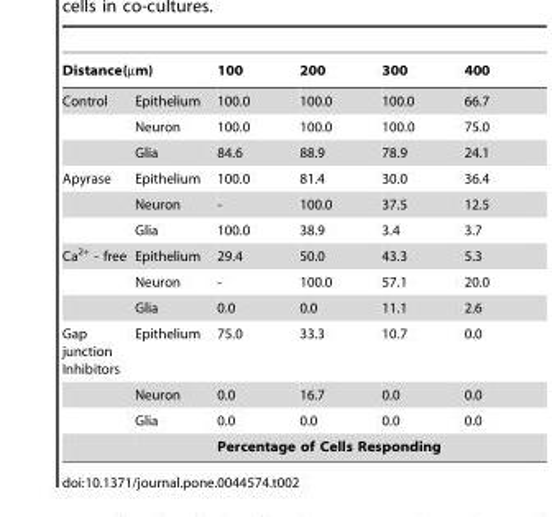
<table><thead><tr><td colspan="2">Distance(µm)</td><td rowspan="2">100 100.0</td><td rowspan="2">200 100.0</td><td rowspan="2">300 100.0</td><td rowspan="2">400 66.7</td></tr><tr><td>Control</td><td>Epithelium</td></tr></thead><tbody><tr><td></td><td>Neuron</td><td>100.0</td><td>100.0</td><td>100.0</td><td>75.0</td></tr><tr><td></td><td>Glia</td><td>84.6</td><td>88.9</td><td>78.9</td><td>24.1</td></tr><tr><td rowspan="3">Apyrase</td><td>Epithelium</td><td>100.0</td><td>81.4</td><td>30.0</td><td>36.4</td></tr><tr><td>Neuron</td><td>-</td><td>100.0</td><td>37.5</td><td>12.5</td></tr><tr><td>Glia</td><td>100.0</td><td>38.9</td><td>3.4</td><td>3.7</td></tr><tr><td rowspan="3">Ca<sup>2+</sup> - free</td><td>Epithelium</td><td>29.4</td><td>50.0</td><td>43.3</td><td>5.3</td></tr><tr><td>Neuron</td><td>-</td><td>100.0</td><td>57.1</td><td>20.0</td></tr><tr><td>Glia</td><td>0.0</td><td>0.0</td><td>11.1</td><td>2.6</td></tr><tr><td rowspan="4">Gap junction Inhibitors</td><td>Epithelium</td><td>75.0</td><td>33.3</td><td>10.7</td><td>0.0</td></tr><tr><td>Neuron</td><td>0.0</td><td>16.7</td><td>0.0</td><td>0.0</td></tr><tr><td>Glia</td><td>0.0</td><td>0.0</td><td>0.0</td><td>0.0</td></tr><tr><td></td><td colspan="4">Percentage of Cells Responding</td></tr></tbody></table>